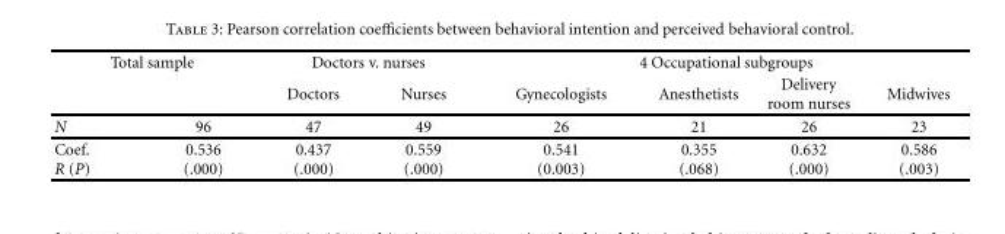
<table><thead><tr><td colspan="2">Total sample</td><td colspan="2">Doctors v. nurses</td><td colspan="4">4 Occupational subgroups</td></tr><tr><td></td><td></td><td>Doctors</td><td>Nurses</td><td>Gynecologists</td><td>Anesthetists</td><td>Delivery room nurses</td><td>Midwives</td></tr></thead><tbody><tr><td>N</td><td>96</td><td>47</td><td>49</td><td>26</td><td>21</td><td>26</td><td>23</td></tr><tr><td>Coef. R (P)</td><td>0.536 (.000)</td><td>0.437 (.000)</td><td>0.559 (.000)</td><td>0.541 (0.003)</td><td>0.355 (.068)</td><td>0.632 (.000)</td><td>0.586 (.003)</td></tr></tbody></table>